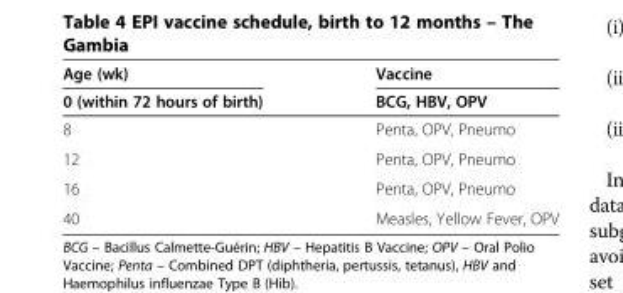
<table><thead><tr><td rowspan="2">Age (wk) 0 (within 72 hours of birth)</td><td rowspan="2">Vaccine BCG, HBV, OPV</td></tr><tr></tr></thead><tbody><tr><td>8</td><td>Penta, OPV, Pneumo</td></tr><tr><td>12</td><td>Penta, OPV, Pneumo</td></tr><tr><td>16</td><td>Penta, OPV, Pneumo</td></tr><tr><td>40</td><td>Measles, Yellow Fever, OPV</td></tr></tbody></table>